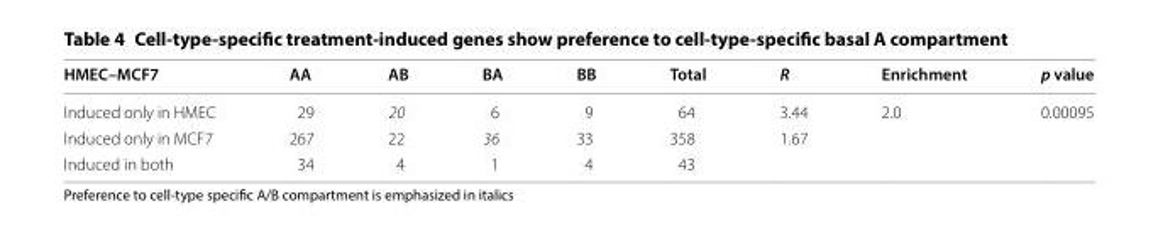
<table><thead><tr><td>HMEC–MCF7</td><td>AA</td><td>AB</td><td>BA</td><td>BB</td><td>Total</td><td>R</td><td>Enrichment</td><td>p value</td></tr></thead><tbody><tr><td>Induced only in HMEC</td><td>29</td><td>20</td><td>6</td><td>9</td><td>64</td><td>3.44</td><td>2.0</td><td>0.00095</td></tr><tr><td>Induced only in MCF7</td><td>267</td><td>22</td><td>36</td><td>33</td><td>358</td><td>1.67</td><td></td><td></td></tr><tr><td>Induced in both</td><td>34</td><td>4</td><td>1</td><td>4</td><td>43</td><td></td><td></td><td></td></tr></tbody></table>